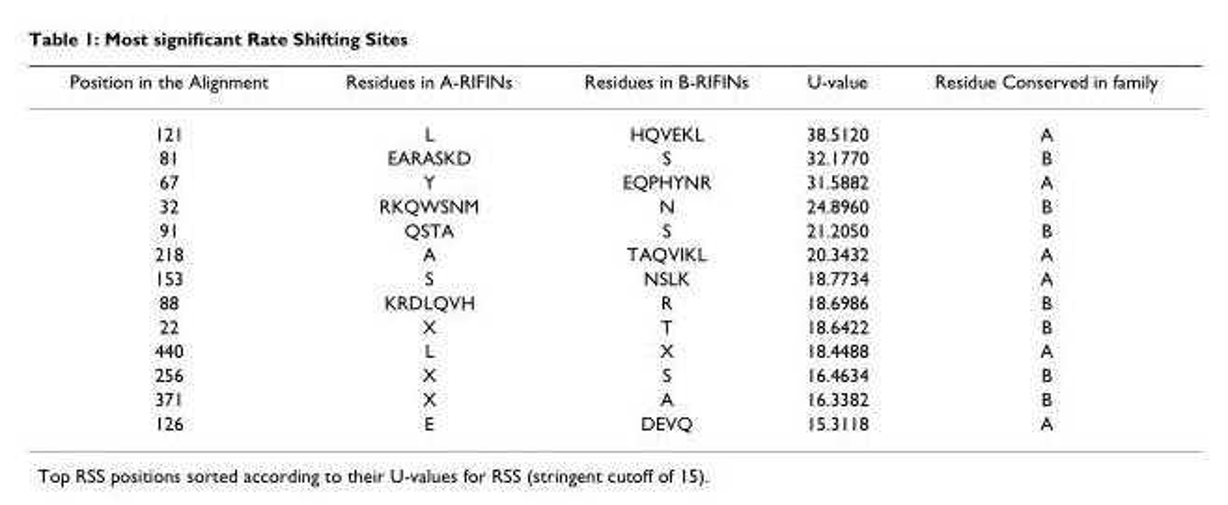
<table><thead><tr><td>Position in the Alignment</td><td>Residues in A-RIFINs</td><td>Residues in B-RIFINs</td><td>U-value</td><td>Residue Conserved in family</td></tr></thead><tbody><tr><td>121</td><td>L</td><td>HQVEKL</td><td>38.5120</td><td>A</td></tr><tr><td>81</td><td>EARASKD</td><td>S</td><td>32.1770</td><td>B</td></tr><tr><td>67</td><td>Y</td><td>EQPHYNR</td><td>31.5882</td><td>A</td></tr><tr><td>32</td><td>RKQWSNM</td><td>N</td><td>24.8960</td><td>B</td></tr><tr><td>91</td><td>QSTA</td><td>S</td><td>21.2050</td><td>B</td></tr><tr><td>218</td><td>A</td><td>TAQVIKL</td><td>20.3432</td><td>A</td></tr><tr><td>153</td><td>S</td><td>NSLK</td><td>18.7734</td><td>A</td></tr><tr><td>88</td><td>KRDLQVH</td><td>R</td><td>18.6986</td><td>B</td></tr><tr><td>22</td><td>X</td><td>T</td><td>18.6422</td><td>B</td></tr><tr><td>440</td><td>L</td><td>X</td><td>18.4488</td><td>A</td></tr><tr><td>256</td><td>X</td><td>S</td><td>16.4634</td><td>B</td></tr><tr><td>371</td><td>X</td><td>A</td><td>16.3382</td><td>B</td></tr><tr><td>126</td><td>E</td><td>DEVQ</td><td>15.3118</td><td>A</td></tr></tbody></table>